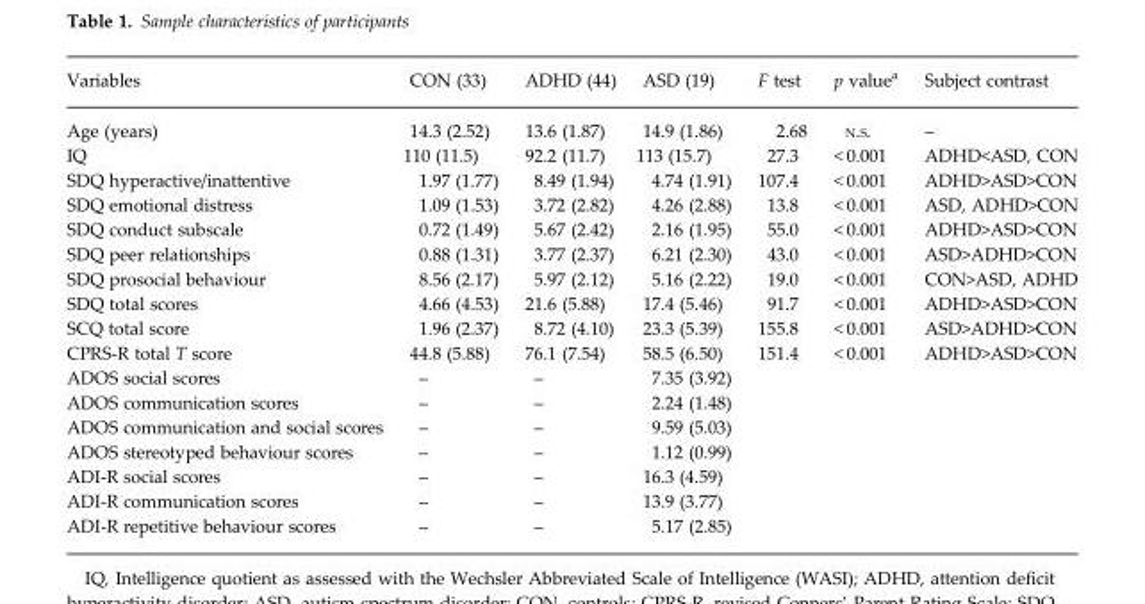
<table><thead><tr><td>Variables</td><td>CON (33)</td><td>ADHD (44)</td><td>ASD (19)</td><td>F test</td><td>p value<sup>a</sup></td><td>Subject contrast</td></tr></thead><tbody><tr><td>Age (years)</td><td>14.3 (2.52)</td><td>13.6 (1.87)</td><td>14.9 (1.86)</td><td>2.68</td><td>N.S.</td><td>–</td></tr><tr><td>IQ</td><td>110 (11.5)</td><td>92.2 (11.7)</td><td>113 (15.7)</td><td>27.3</td><td>&lt; 0.001</td><td>ADHD&lt;ASD, CON</td></tr><tr><td>SDQ hyperactive/inattentive</td><td>1.97 (1.77)</td><td>8.49 (1.94)</td><td>4.74 (1.91)</td><td>107.4</td><td>&lt; 0.001</td><td>ADHD&gt;ASD&gt;CON</td></tr><tr><td>SDQ emotional distress</td><td>1.09 (1.53)</td><td>3.72 (2.82)</td><td>4.26 (2.88)</td><td>13.8</td><td>&lt; 0.001</td><td>ASD, ADHD&gt;CON</td></tr><tr><td>SDQ conduct subscale</td><td>0.72 (1.49)</td><td>5.67 (2.42)</td><td>2.16 (1.95)</td><td>55.0</td><td>&lt; 0.001</td><td>ADHD&gt;ASD&gt;CON</td></tr><tr><td>SDQ peer relationships</td><td>0.88 (1.31)</td><td>3.77 (2.37)</td><td>6.21 (2.30)</td><td>43.0</td><td>&lt; 0.001</td><td>ASD&gt;ADHD&gt;CON</td></tr><tr><td>SDQ prosocial behaviour</td><td>8.56 (2.17)</td><td>5.97 (2.12)</td><td>5.16 (2.22)</td><td>19.0</td><td>&lt; 0.001</td><td>CON&gt;ASD, ADHD</td></tr><tr><td>SDQ total scores</td><td>4.66 (4.53)</td><td>21.6 (5.88)</td><td>17.4 (5.46)</td><td>91.7</td><td>&lt; 0.001</td><td>ADHD&gt;ASD&gt;CON</td></tr><tr><td>SCQ total score</td><td>1.96 (2.37)</td><td>8.72 (4.10)</td><td>23.3 (5.39)</td><td>155.8</td><td>&lt; 0.001</td><td>ASD&gt;ADHD&gt;CON</td></tr><tr><td>CPRS-R total T score</td><td>44.8 (5.88)</td><td>76.1 (7.54)</td><td>58.5 (6.50)</td><td>151.4</td><td>&lt; 0.001</td><td>ADHD&gt;ASD&gt;CON</td></tr><tr><td>ADOS social scores</td><td>–</td><td>–</td><td>7.35 (3.92)</td><td></td><td></td><td></td></tr><tr><td>ADOS communication scores</td><td>–</td><td>–</td><td>2.24 (1.48)</td><td></td><td></td><td></td></tr><tr><td>ADOS communication and social scores</td><td>–</td><td>–</td><td>9.59 (5.03)</td><td></td><td></td><td></td></tr><tr><td>ADOS stereotyped behaviour scores</td><td>–</td><td>–</td><td>1.12 (0.99)</td><td></td><td></td><td></td></tr><tr><td>ADI-R social scores</td><td>–</td><td>–</td><td>16.3 (4.59)</td><td></td><td></td><td></td></tr><tr><td>ADI-R communication scores</td><td>–</td><td>–</td><td>13.9 (3.77)</td><td></td><td></td><td></td></tr><tr><td>ADI-R repetitive behaviour scores</td><td>–</td><td>–</td><td>5.17 (2.85)</td><td></td><td></td><td></td></tr></tbody></table>